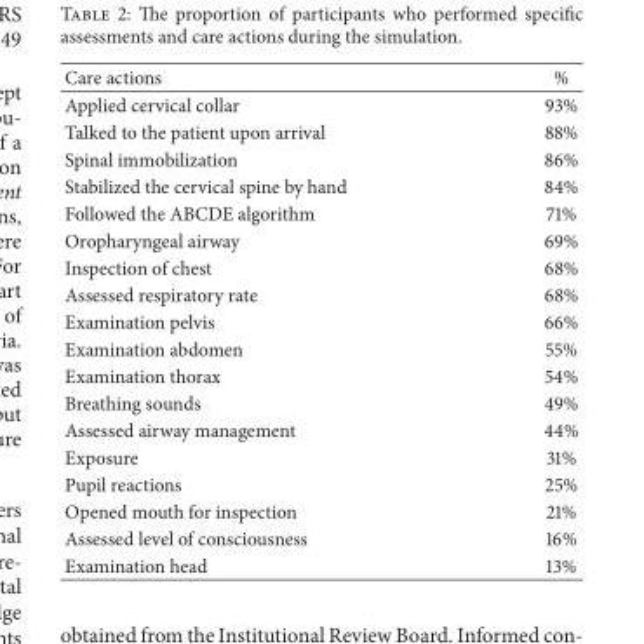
<table><thead><tr><td>Care actions</td><td>%</td></tr></thead><tbody><tr><td>Applied cervical collar</td><td>93%</td></tr><tr><td>Talked to the patient upon arrival</td><td>88%</td></tr><tr><td>Spinal immobilization</td><td>86%</td></tr><tr><td>Stabilized the cervical spine by hand</td><td>84%</td></tr><tr><td>Followed the ABCDE algorithm</td><td>71%</td></tr><tr><td>Oropharyngeal airway</td><td>69%</td></tr><tr><td>Inspection of chest</td><td>68%</td></tr><tr><td>Assessed respiratory rate</td><td>68%</td></tr><tr><td>Examination pelvis</td><td>66%</td></tr><tr><td>Examination abdomen</td><td>55%</td></tr><tr><td>Examination thorax</td><td>54%</td></tr><tr><td>Breathing sounds</td><td>49%</td></tr><tr><td>Assessed airway management</td><td>44%</td></tr><tr><td>Exposure</td><td>31%</td></tr><tr><td>Pupil reactions</td><td>25%</td></tr><tr><td>Opened mouth for inspection</td><td>21%</td></tr><tr><td>Assessed level of consciousness</td><td>16%</td></tr><tr><td>Examination head</td><td>13%</td></tr></tbody></table>